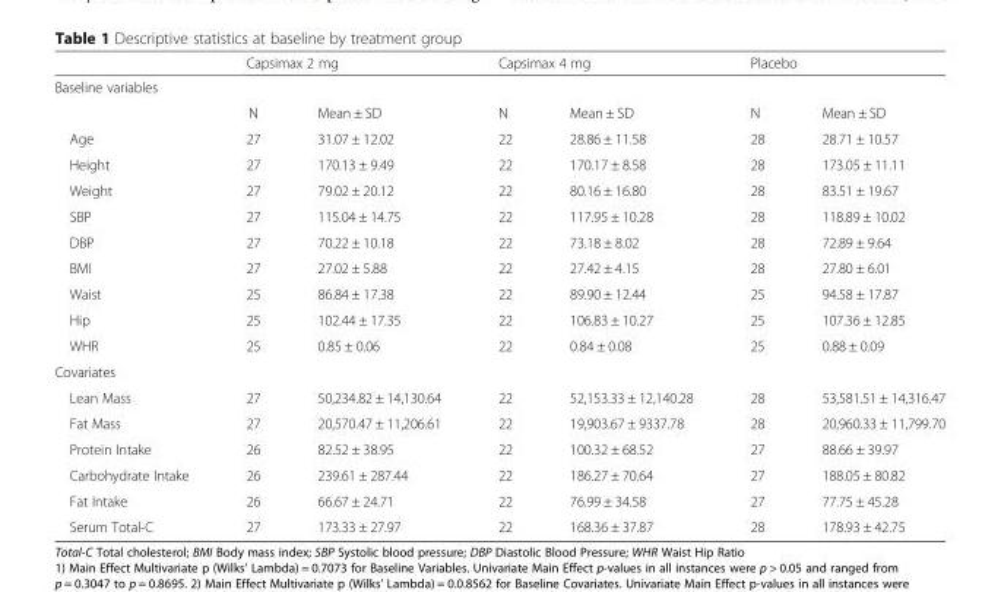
<table><thead><tr><td></td><td colspan="2">Capsimax 2 mg</td><td colspan="2">Capsimax 4 mg</td><td colspan="2">Placebo</td></tr><tr><td colspan="7">Baseline variables</td></tr><tr><td></td><td>N</td><td>Mean ± SD</td><td>N</td><td>Mean ± SD</td><td>N</td><td>Mean ± SD</td></tr></thead><tbody><tr><td>Age</td><td>27</td><td>31.07 ± 12.02</td><td>22</td><td>28.86 ± 11.58</td><td>28</td><td>28.71 ± 10.57</td></tr><tr><td>Height</td><td>27</td><td>170.13 ± 9.49</td><td>22</td><td>170.17 ± 8.58</td><td>28</td><td>173.05 ± 11.11</td></tr><tr><td>Weight</td><td>27</td><td>79.02 ± 20.12</td><td>22</td><td>80.16 ± 16.80</td><td>28</td><td>83.51 ± 19.67</td></tr><tr><td>SBP</td><td>27</td><td>115.04 ± 14.75</td><td>22</td><td>117.95 ± 10.28</td><td>28</td><td>118.89 ± 10.02</td></tr><tr><td>DBP</td><td>27</td><td>70.22 ± 10.18</td><td>22</td><td>73.18 ± 8.02</td><td>28</td><td>72.89 ± 9.64</td></tr><tr><td>BMI</td><td>27</td><td>27.02 ± 5.88</td><td>22</td><td>27.42 ± 4.15</td><td>28</td><td>27.80 ± 6.01</td></tr><tr><td>Waist</td><td>25</td><td>86.84 ± 17.38</td><td>22</td><td>89.90 ± 12.44</td><td>25</td><td>94.58 ± 17.87</td></tr><tr><td>Hip</td><td>25</td><td>102.44 ± 17.35</td><td>22</td><td>106.83 ± 10.27</td><td>25</td><td>107.36 ± 12.85</td></tr><tr><td>WHR</td><td>25</td><td>0.85 ± 0.06</td><td>22</td><td>0.84 ± 0.08</td><td>25</td><td>0.88 ± 0.09</td></tr><tr><td colspan="7">Covariates</td></tr><tr><td>Lean Mass</td><td>27</td><td>50,234.82 ± 14,130.64</td><td>22</td><td>52,153.33 ± 12,140.28</td><td>28</td><td>53,581.51 ± 14,316.47</td></tr><tr><td>Fat Mass</td><td>27</td><td>20,570.47 ± 11,206.61</td><td>22</td><td>19,903.67 ± 9337.78</td><td>28</td><td>20,960.33 ± 11,799.70</td></tr><tr><td>Protein Intake</td><td>26</td><td>82.52 ± 38.95</td><td>22</td><td>100.32 ± 68.52</td><td>27</td><td>88.66 ± 39.97</td></tr><tr><td>Carbohydrate Intake</td><td>26</td><td>239.61 ± 287.44</td><td>22</td><td>186.27 ± 70.64</td><td>27</td><td>188.05 ± 80.82</td></tr><tr><td>Fat Intake</td><td>26</td><td>66.67 ± 24.71</td><td>22</td><td>76.99 ± 34.58</td><td>27</td><td>77.75 ± 45.28</td></tr><tr><td>Serum Total-C</td><td>27</td><td>173.33 ± 27.97</td><td>22</td><td>168.36 ± 37.87</td><td>28</td><td>178.93 ± 42.75</td></tr></tbody></table>